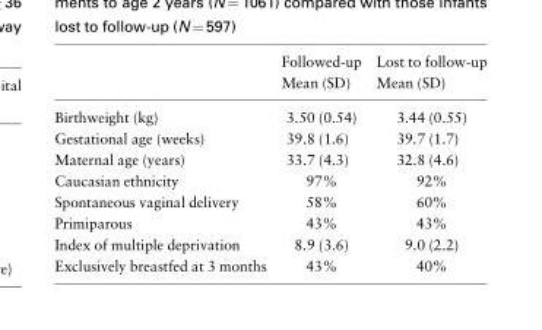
<table><thead><tr><td rowspan="2"></td><td rowspan="2">Followed-up Mean (SD)</td><td rowspan="2">Lost to follow-up Mean (SD)</td></tr><tr></tr></thead><tbody><tr><td>Birthweight (kg)</td><td>3.50 (0.54)</td><td>3.44 (0.55)</td></tr><tr><td>Gestational age (weeks)</td><td>39.8 (1.6)</td><td>39.7 (1.7)</td></tr><tr><td>Maternal age (years)</td><td>33.7 (4.3)</td><td>32.8 (4.6)</td></tr><tr><td>Caucasian ethnicity</td><td>97%</td><td>92%</td></tr><tr><td>Spontaneous vaginal delivery</td><td>58%</td><td>60%</td></tr><tr><td>Primiparous</td><td>43%</td><td>43%</td></tr><tr><td>Index of multiple deprivation</td><td>8.9 (3.6)</td><td>9.0 (2.2)</td></tr><tr><td>Exclusively breastfed at 3 months</td><td>43%</td><td>40%</td></tr></tbody></table>